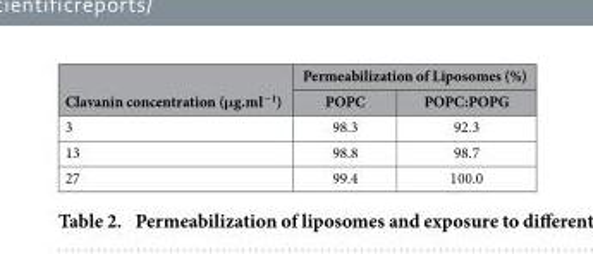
<table><thead><tr><td rowspan="2">Clavanin concentration (μg.ml<sup>−1</sup>)</td><td colspan="2">Permeabilization of Liposomes (%)</td></tr><tr><td>POPC</td><td>POPC:POPG</td></tr></thead><tbody><tr><td>3</td><td>98.3</td><td>92.3</td></tr><tr><td>13</td><td>98.8</td><td>98.7</td></tr><tr><td>27</td><td>99.4</td><td>100.0</td></tr></tbody></table>